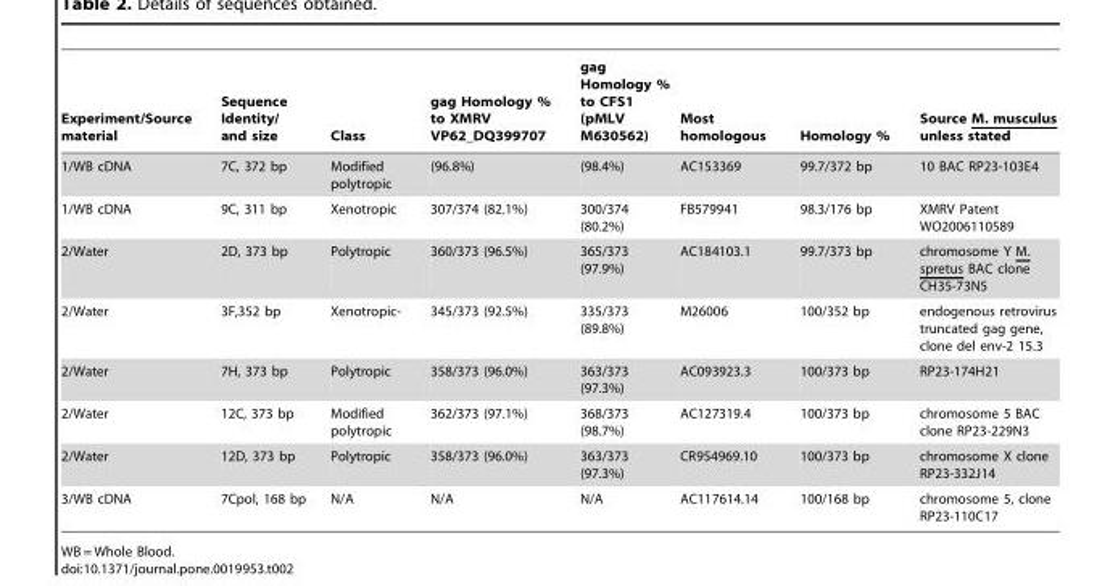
<table><thead><tr><td>Experiment/Source material</td><td>Sequence Identity/ and size</td><td>Class</td><td>gag Homology % to XMRV VP62_DQ399707</td><td>gag Homology % to CFS1 (pMLV M630562)</td><td>Most homologous</td><td>Homology %</td><td>Source M. musculus unless stated</td></tr></thead><tbody><tr><td>1/WB cDNA</td><td>7C, 372 bp</td><td>Modified polytropic</td><td>(96.8%)</td><td>(98.4%)</td><td>AC153369</td><td>99.7/372 bp</td><td>10 BAC RP23-103E4</td></tr><tr><td>1/WB cDNA</td><td>9C, 311 bp</td><td>Xenotropic</td><td>307/374 (82.1%)</td><td>300/374 (80.2%)</td><td>FB579941</td><td>98.3/176 bp</td><td>XMRV Patent WO2006110589</td></tr><tr><td>2/Water</td><td>2D, 373 bp</td><td>Polytropic</td><td>360/373 (96.5%)</td><td>365/373 (97.9%)</td><td>AC184103.1</td><td>99.7/373 bp</td><td>chromosome Y M. spretus BAC clone CH35-73N5</td></tr><tr><td>2/Water</td><td>3F,352 bp</td><td>Xenotropic-</td><td>345/373 (92.5%)</td><td>335/373 (89.8%)</td><td>M26006</td><td>100/352 bp</td><td>endogenous retrovirus truncated gag gene, clone del env-2 15.3</td></tr><tr><td>2/Water</td><td>7H, 373 bp</td><td>Polytropic</td><td>358/373 (96.0%)</td><td>363/373 (97.3%)</td><td>AC093923.3</td><td>100/373 bp</td><td>RP23-174H21</td></tr><tr><td>2/Water</td><td>12C, 373 bp</td><td>Modified polytropic</td><td>362/373 (97.1%)</td><td>368/373 (98.7%)</td><td>AC127319.4</td><td>100/373 bp</td><td>chromosome 5 BAC clone RP23-229N3</td></tr><tr><td>2/Water</td><td>12D, 373 bp</td><td>Polytropic</td><td>358/373 (96.0%)</td><td>363/373 (97.3%)</td><td>CR954969.10</td><td>100/373 bp</td><td>chromosome X clone RP23-332J14</td></tr><tr><td>3/WB cDNA</td><td>7Cpol, 168 bp</td><td>N/A</td><td>N/A</td><td>N/A</td><td>AC117614.14</td><td>100/168 bp</td><td>chromosome 5, clone RP23-110C17</td></tr></tbody></table>